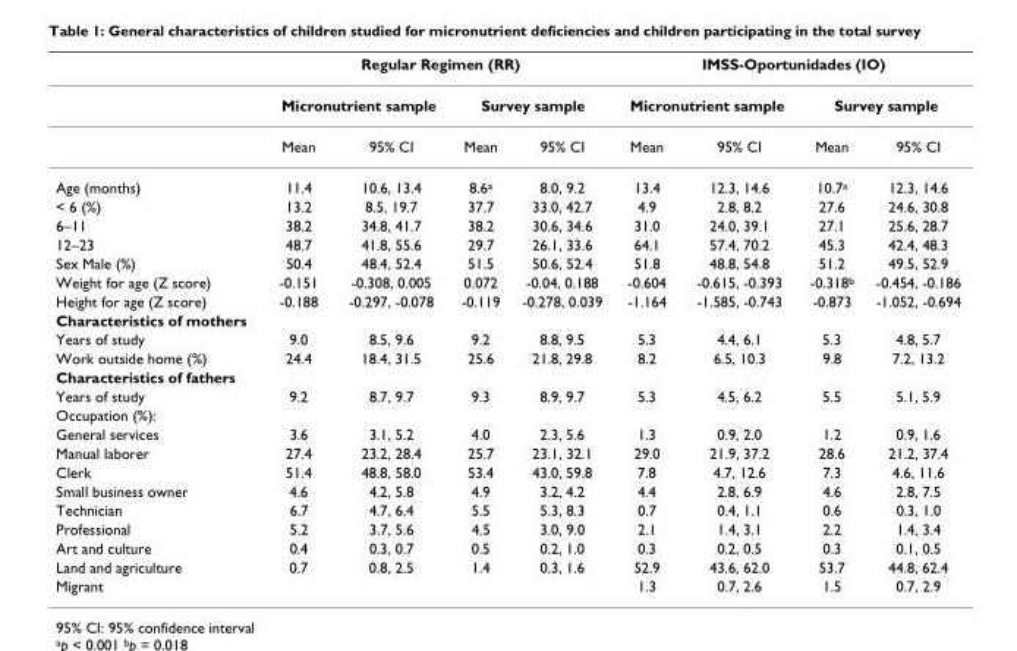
<table><thead><tr><td rowspan="3"></td><td colspan="4">Regular Regimen (RR)</td><td colspan="4">IMSS-Oportunidades (IO)</td></tr><tr><td colspan="2">Micronutrient sample</td><td colspan="2">Survey sample</td><td colspan="2">Micronutrient sample</td><td colspan="2">Survey sample</td></tr><tr><td>Mean</td><td>95% CI</td><td>Mean</td><td>95% CI</td><td>Mean</td><td>95% CI</td><td>Mean</td><td>95% CI</td></tr></thead><tbody><tr><td>Age (months)</td><td>11.4</td><td>10.6, 13.4</td><td>8.6<sup>a</sup></td><td>8.0, 9.2</td><td>13.4</td><td>12.3, 14.6</td><td>10.7<sup>a</sup></td><td>12.3, 14.6</td></tr><tr><td>&lt; 6 (%)</td><td>13.2</td><td>8.5, 19.7</td><td>37.7</td><td>33.0, 42.7</td><td>4.9</td><td>2.8, 8.2</td><td>27.6</td><td>24.6, 30.8</td></tr><tr><td>6–11</td><td>38.2</td><td>34.8, 41.7</td><td>38.2</td><td>30.6, 34.6</td><td>31.0</td><td>24.0, 39.1</td><td>27.1</td><td>25.6, 28.7</td></tr><tr><td>12–23</td><td>48.7</td><td>41.8, 55.6</td><td>29.7</td><td>26.1, 33.6</td><td>64.1</td><td>57.4, 70.2</td><td>45.3</td><td>42.4, 48.3</td></tr><tr><td>Sex Male (%)</td><td>50.4</td><td>48.4, 52.4</td><td>51.5</td><td>50.6, 52.4</td><td>51.8</td><td>48.8, 54.8</td><td>51.2</td><td>49.5, 52.9</td></tr><tr><td>Weight for age (Z score)</td><td>-0.151</td><td>-0.308, 0.005</td><td>0.072</td><td>-0.04, 0.188</td><td>-0.604</td><td>-0.615, -0.393</td><td>-0.318<sup>b</sup></td><td>-0.454, -0.186</td></tr><tr><td>Height for age (Z score)</td><td>-0.188</td><td>-0.297, -0.078</td><td>-0.119</td><td>-0.278, 0.039</td><td>-1.164</td><td>-1.585, -0.743</td><td>-0.873</td><td>-1.052, -0.694</td></tr><tr><td colspan="9">Characteristics of mothers</td></tr><tr><td>Years of study</td><td>9.0</td><td>8.5, 9.6</td><td>9.2</td><td>8.8, 9.5</td><td>5.3</td><td>4.4, 6.1</td><td>5.3</td><td>4.8, 5.7</td></tr><tr><td>Work outside home (%)</td><td>24.4</td><td>18.4, 31.5</td><td>25.6</td><td>21.8, 29.8</td><td>8.2</td><td>6.5, 10.3</td><td>9.8</td><td>7.2, 13.2</td></tr><tr><td colspan="9">Characteristics of fathers</td></tr><tr><td>Years of study</td><td>9.2</td><td>8.7, 9.7</td><td>9.3</td><td>8.9, 9.7</td><td>5.3</td><td>4.5, 6.2</td><td>5.5</td><td>5.1, 5.9</td></tr><tr><td colspan="9">Occupation (%):</td></tr><tr><td>General services</td><td>3.6</td><td>3.1, 5.2</td><td>4.0</td><td>2.3, 5.6</td><td>1.3</td><td>0.9, 2.0</td><td>1.2</td><td>0.9, 1.6</td></tr><tr><td>Manual laborer</td><td>27.4</td><td>23.2, 28.4</td><td>25.7</td><td>23.1, 32.1</td><td>29.0</td><td>21.9, 37.2</td><td>28.6</td><td>21.2, 37.4</td></tr><tr><td>Clerk</td><td>51.4</td><td>48.8, 58.0</td><td>53.4</td><td>43.0, 59.8</td><td>7.8</td><td>4.7, 12.6</td><td>7.3</td><td>4.6, 11.6</td></tr><tr><td>Small business owner</td><td>4.6</td><td>4.2, 5.8</td><td>4.9</td><td>3.2, 4.2</td><td>4.4</td><td>2.8, 6.9</td><td>4.6</td><td>2.8, 7.5</td></tr><tr><td>Technician</td><td>6.7</td><td>4.7, 6.4</td><td>5.5</td><td>5.3, 8.3</td><td>0.7</td><td>0.4, 1.1</td><td>0.6</td><td>0.3, 1.0</td></tr><tr><td>Professional</td><td>5.2</td><td>3.7, 5.6</td><td>4.5</td><td>3.0, 9.0</td><td>2.1</td><td>1.4, 3.1</td><td>2.2</td><td>1.4, 3.4</td></tr><tr><td>Art and culture</td><td>0.4</td><td>0.3, 0.7</td><td>0.5</td><td>0.2, 1.0</td><td>0.3</td><td>0.2, 0.5</td><td>0.3</td><td>0.1, 0.5</td></tr><tr><td>Land and agriculture</td><td>0.7</td><td>0.8, 2.5</td><td>1.4</td><td>0.3, 1.6</td><td>52.9</td><td>43.6, 62.0</td><td>53.7</td><td>44.8, 62.4</td></tr><tr><td>Migrant</td><td></td><td></td><td></td><td></td><td>1.3</td><td>0.7, 2.6</td><td>1.5</td><td>0.7, 2.9</td></tr></tbody></table>